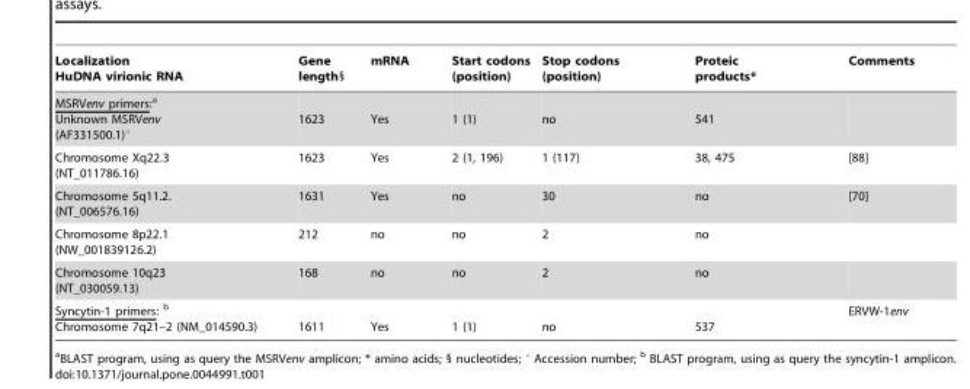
<table><thead><tr><td>Localization HuDNA virionic RNA</td><td>Gene length§</td><td>mRNA</td><td>Start codons (position)</td><td>Stop codons (position)</td><td>Proteic products*</td><td>Comments</td></tr></thead><tbody><tr><td>MSRVenv primers:<sup>a</sup> Unknown MSRVenv (AF331500.1)°</td><td>1623</td><td>Yes</td><td>1 (1)</td><td>no</td><td>541</td><td></td></tr><tr><td>Chromosome Xq22.3 (NT_011786.16)</td><td>1623</td><td>Yes</td><td>2 (1, 196)</td><td>1 (117)</td><td>38, 475</td><td>[88]</td></tr><tr><td>Chromosome 5q11.2. (NT_006576.16)</td><td>1631</td><td>Yes</td><td>no</td><td>30</td><td>no</td><td>[70]</td></tr><tr><td>Chromosome 8p22.1 (NW_001839126.2)</td><td>212</td><td>no</td><td>no</td><td>2</td><td>no</td><td></td></tr><tr><td>Chromosome 10q23 (NT_030059.13)</td><td>168</td><td>no</td><td>no</td><td>2</td><td>no</td><td></td></tr><tr><td>Syncytin-1 primers: <sup>b</sup> Chromosome 7q21–2 (NM_014590.3)</td><td>1611</td><td>Yes</td><td>1 (1)</td><td>no</td><td>537</td><td>ERVW-1env</td></tr></tbody></table>